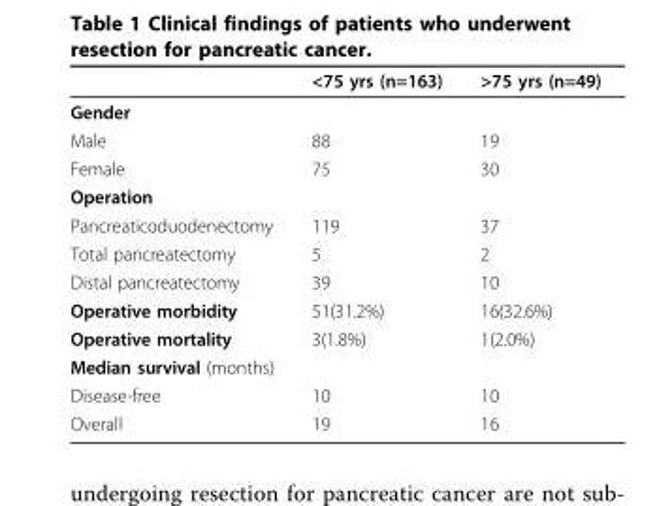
<table><thead><tr><td></td><td>&lt;75 yrs (n=163)</td><td>&gt;75 yrs (n=49)</td></tr></thead><tbody><tr><td colspan="3">Gender</td></tr><tr><td>Male</td><td>88</td><td>19</td></tr><tr><td>Female</td><td>75</td><td>30</td></tr><tr><td colspan="3">Operation</td></tr><tr><td>Pancreaticoduodenectomy</td><td>119</td><td>37</td></tr><tr><td>Total pancreatectomy</td><td>5</td><td>2</td></tr><tr><td>Distal pancreatectomy</td><td>39</td><td>10</td></tr><tr><td>Operative morbidity</td><td>51(31.2%)</td><td>16(32.6%)</td></tr><tr><td>Operative mortality</td><td>3(1.8%)</td><td>1(2.0%)</td></tr><tr><td colspan="3">Median survival (months)</td></tr><tr><td>Disease-free</td><td>10</td><td>10</td></tr><tr><td>Overall</td><td>19</td><td>16</td></tr></tbody></table>